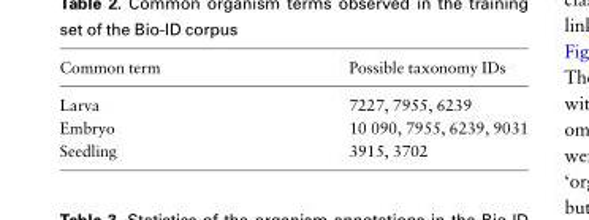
<table><thead><tr><td>Common term</td><td>Possible taxonomy IDs</td></tr></thead><tbody><tr><td>Larva</td><td>7227, 7955, 6239</td></tr><tr><td>Embryo</td><td>10 090, 7955, 6239, 9031</td></tr><tr><td>Seedling</td><td>3915, 3702</td></tr></tbody></table>